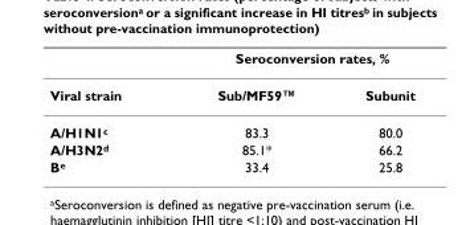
<table><thead><tr><td rowspan="2">Viral strain</td><td colspan="2">Seroconversion rates, %</td></tr><tr><td>Sub/MF59™</td><td>Subunit</td></tr></thead><tbody><tr><td>A/H1N1<sup>c</sup></td><td>83.3</td><td>80.0</td></tr><tr><td>A/H3N2<sup>d</sup></td><td>85.1*</td><td>66.2</td></tr><tr><td>B<sup>e</sup></td><td>33.4</td><td>25.8</td></tr></tbody></table>